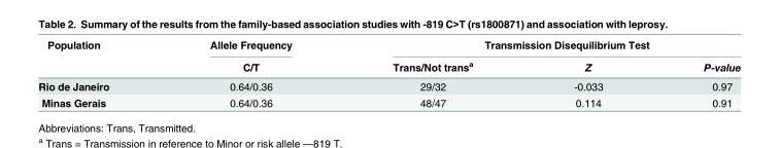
<table><thead><tr><td rowspan="2">Population</td><td rowspan="2">Allele Frequency C/T</td><td colspan="3">Transmission Disequilibrium Test</td></tr><tr><td>Trans/Not trans<sup>a</sup></td><td>Z</td><td>P-value</td></tr></thead><tbody><tr><td>Rio de Janeiro</td><td>0.64/0.36</td><td>29/32</td><td>-0.033</td><td>0.97</td></tr><tr><td>Minas Gerais</td><td>0.64/0.36</td><td>48/47</td><td>0.114</td><td>0.91</td></tr></tbody></table>